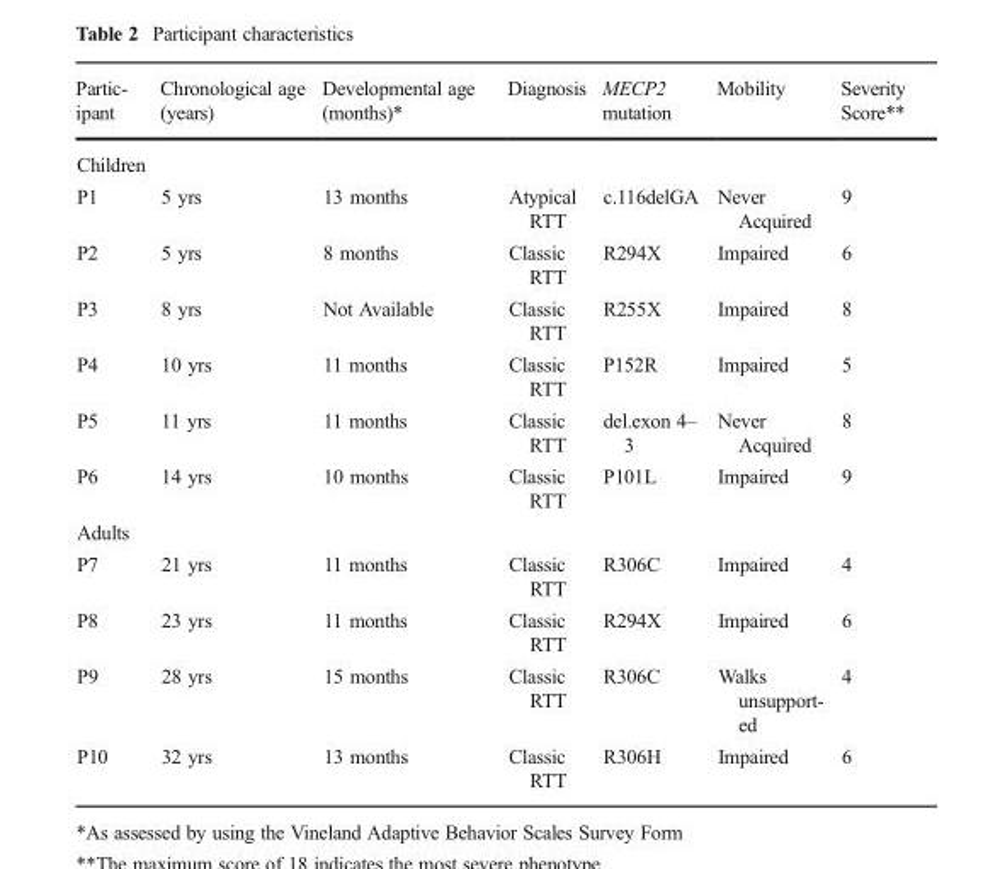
<table><thead><tr><td>Partic- ipant</td><td>Chronological age (years)</td><td>Developmental age (months)*</td><td>Diagnosis</td><td>MECP2 mutation</td><td>Mobility</td><td>Severity Score**</td></tr></thead><tbody><tr><td colspan="7">Children</td></tr><tr><td>P1</td><td>5 yrs</td><td>13 months</td><td>Atypical RTT</td><td>c.116delGA</td><td>Never Acquired</td><td>9</td></tr><tr><td>P2</td><td>5 yrs</td><td>8 months</td><td>Classic RTT</td><td>R294X</td><td>Impaired</td><td>6</td></tr><tr><td>P3</td><td>8 yrs</td><td>Not Available</td><td>Classic RTT</td><td>R255X</td><td>Impaired</td><td>8</td></tr><tr><td>P4</td><td>10 yrs</td><td>11 months</td><td>Classic RTT</td><td>P152R</td><td>Impaired</td><td>5</td></tr><tr><td>P5</td><td>11 yrs</td><td>11 months</td><td>Classic RTT</td><td>del.exon 4– 3</td><td>Never Acquired</td><td>8</td></tr><tr><td>P6</td><td>14 yrs</td><td>10 months</td><td>Classic RTT</td><td>P101L</td><td>Impaired</td><td>9</td></tr><tr><td colspan="7">Adults</td></tr><tr><td>P7</td><td>21 yrs</td><td>11 months</td><td>Classic RTT</td><td>R306C</td><td>Impaired</td><td>4</td></tr><tr><td>P8</td><td>23 yrs</td><td>11 months</td><td>Classic RTT</td><td>R294X</td><td>Impaired</td><td>6</td></tr><tr><td>P9</td><td>28 yrs</td><td>15 months</td><td>Classic RTT</td><td>R306C</td><td>Walks unsupport- ed</td><td>4</td></tr><tr><td>P10</td><td>32 yrs</td><td>13 months</td><td>Classic RTT</td><td>R306H</td><td>Impaired</td><td>6</td></tr></tbody></table>